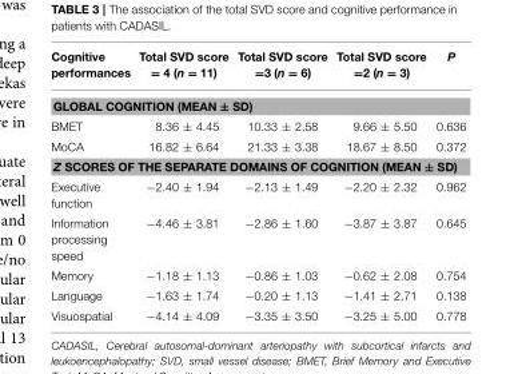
<table><thead><tr><td>Cognitive performances</td><td>Total SVD score = 4 (n = 11)</td><td>Total SVD score =3 (n = 6)</td><td>Total SVD score =2 (n = 3)</td><td>P</td></tr></thead><tbody><tr><td colspan="5">GLOBAL COGNITION (MEAN ± SD)</td></tr><tr><td>BMET</td><td>8.36 ± 4.45</td><td>10.33 ± 2.58</td><td>9.66 ± 5.50</td><td>0.636</td></tr><tr><td>MoCA</td><td>16.82 ± 6.64</td><td>21.33 ± 3.38</td><td>18.67 ± 8.50</td><td>0.372</td></tr><tr><td colspan="5">Z SCORES OF THE SEPARATE DOMAINS OF COGNITION (MEAN ± SD)</td></tr><tr><td>Executive function</td><td>−2.40 ± 1.94</td><td>−2.13 ± 1.49</td><td>−2.20 ± 2.32</td><td>0.962</td></tr><tr><td>Information processing speed</td><td>−4.46 ± 3.81</td><td>−2.86 ± 1.60</td><td>−3.87 ± 3.87</td><td>0.645</td></tr><tr><td>Memory</td><td>−1.18 ± 1.13</td><td>−0.86 ± 1.03</td><td>−0.62 ± 2.08</td><td>0.754</td></tr><tr><td>Language</td><td>−1.63 ± 1.74</td><td>−0.20 ± 1.13</td><td>−1.41 ± 2.71</td><td>0.138</td></tr><tr><td>Visuospatial</td><td>−4.14 ± 4.09</td><td>−3.35 ± 3.50</td><td>−3.25 ± 5.00</td><td>0.778</td></tr></tbody></table>